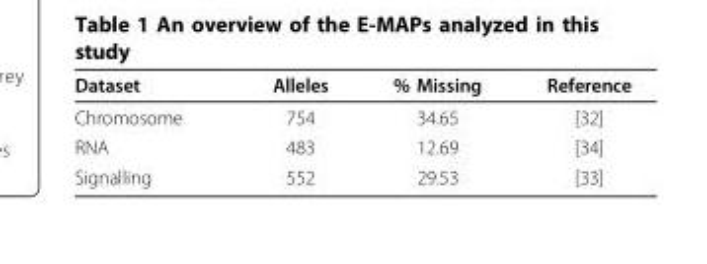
<table><thead><tr><td>Dataset</td><td>Alleles</td><td>% Missing</td><td>Reference</td></tr></thead><tbody><tr><td>Chromosome</td><td>754</td><td>34.65</td><td>[32]</td></tr><tr><td>RNA</td><td>483</td><td>12.69</td><td>[34]</td></tr><tr><td>Signalling</td><td>552</td><td>29.53</td><td>[33]</td></tr></tbody></table>